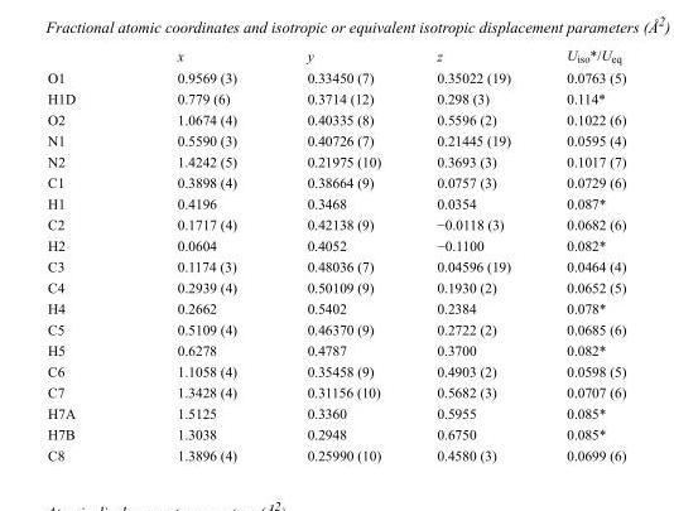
<table><thead><tr><td></td><td>x</td><td>y</td><td>z</td><td>U<sub>iso</sub>*/U<sub>eq</sub></td></tr></thead><tbody><tr><td>O1</td><td>0.9569 (3)</td><td>0.33450 (7)</td><td>0.35022 (19)</td><td>0.0763 (5)</td></tr><tr><td>H1D</td><td>0.779 (6)</td><td>0.3714 (12)</td><td>0.298 (3)</td><td>0.114*</td></tr><tr><td>O2</td><td>1.0674 (4)</td><td>0.40335 (8)</td><td>0.5596 (2)</td><td>0.1022 (6)</td></tr><tr><td>N1</td><td>0.5590 (3)</td><td>0.40726 (7)</td><td>0.21445 (19)</td><td>0.0595 (4)</td></tr><tr><td>N2</td><td>1.4242 (5)</td><td>0.21975 (10)</td><td>0.3693 (3)</td><td>0.1017 (7)</td></tr><tr><td>C1</td><td>0.3898 (4)</td><td>0.38664 (9)</td><td>0.0757 (3)</td><td>0.0729 (6)</td></tr><tr><td>H1</td><td>0.4196</td><td>0.3468</td><td>0.0354</td><td>0.087*</td></tr><tr><td>C2</td><td>0.1717 (4)</td><td>0.42138 (9)</td><td>−0.0118 (3)</td><td>0.0682 (6)</td></tr><tr><td>H2</td><td>0.0604</td><td>0.4052</td><td>−0.1100</td><td>0.082*</td></tr><tr><td>C3</td><td>0.1174 (3)</td><td>0.48036 (7)</td><td>0.04596 (19)</td><td>0.0464 (4)</td></tr><tr><td>C4</td><td>0.2939 (4)</td><td>0.50109 (9)</td><td>0.1930 (2)</td><td>0.0652 (5)</td></tr><tr><td>H4</td><td>0.2662</td><td>0.5402</td><td>0.2384</td><td>0.078*</td></tr><tr><td>C5</td><td>0.5109 (4)</td><td>0.46370 (9)</td><td>0.2722 (2)</td><td>0.0685 (6)</td></tr><tr><td>H5</td><td>0.6278</td><td>0.4787</td><td>0.3700</td><td>0.082*</td></tr><tr><td>C6</td><td>1.1058 (4)</td><td>0.35458 (9)</td><td>0.4903 (2)</td><td>0.0598 (5)</td></tr><tr><td>C7</td><td>1.3428 (4)</td><td>0.31156 (10)</td><td>0.5682 (3)</td><td>0.0707 (6)</td></tr><tr><td>H7A</td><td>1.5125</td><td>0.3360</td><td>0.5955</td><td>0.085*</td></tr><tr><td>H7B</td><td>1.3038</td><td>0.2948</td><td>0.6750</td><td>0.085*</td></tr><tr><td>C8</td><td>1.3896 (4)</td><td>0.25990 (10)</td><td>0.4580 (3)</td><td>0.0699 (6)</td></tr></tbody></table>